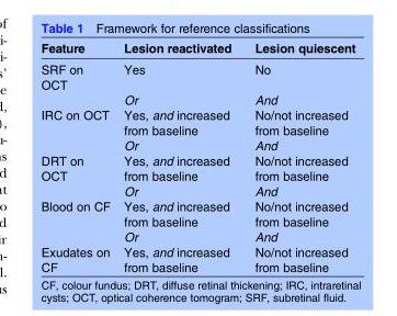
<table><thead><tr><td>Feature</td><td>Lesion reactivated</td><td>Lesion quiescent</td></tr></thead><tbody><tr><td rowspan="2">SRF on OCT</td><td>Yes</td><td>No</td></tr><tr><td>Or</td><td>And</td></tr><tr><td rowspan="2">IRC on OCT</td><td>Yes, and increased from baseline</td><td>No/not increased from baseline</td></tr><tr><td>Or</td><td>And</td></tr><tr><td rowspan="2">DRT on OCT</td><td>Yes, and increased from baseline</td><td>No/not increased from baseline</td></tr><tr><td>Or</td><td>And</td></tr><tr><td rowspan="2">Blood on CF</td><td>Yes, and increased from baseline</td><td>No/not increased from baseline</td></tr><tr><td>Or</td><td>And</td></tr><tr><td>Exudates on CF</td><td>Yes, and increased from baseline</td><td>No/not increased from baseline</td></tr></tbody></table>